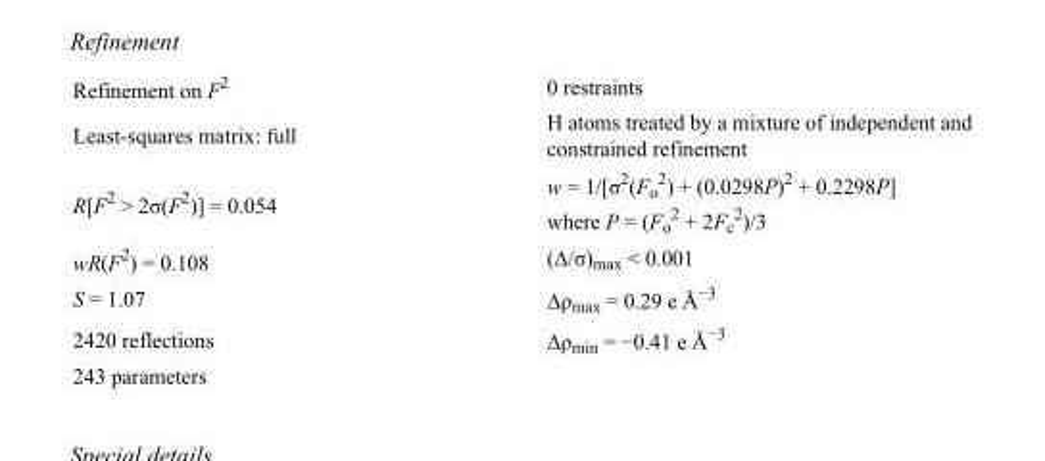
<table><tbody><tr><td>Refinement on F<sup>2</sup></td><td>0 restraints</td></tr><tr><td>Least-squares matrix: full</td><td>H atoms treated by a mixture of independent and constrained refinement</td></tr><tr><td>R[F<sup>2</sup> &gt; 2σ(F<sup>2</sup>)] = 0.054</td><td>w = 1/[σ<sup>2</sup>(F<sub>o</sub> <sup>2</sup>) + (0.0298P)<sup>2</sup> + 0.2298P] where P = (F<sub>o</sub> <sup>2</sup> + 2F<sub>c</sub> <sup>2</sup>)/3</td></tr><tr><td>wR(F<sup>2</sup>) = 0.108</td><td>(Δ/σ)<sub>max</sub> &lt; 0.001</td></tr><tr><td>S = 1.07</td><td>Δρ<sub>max</sub> = 0.29 e Å<sup>−3</sup></td></tr><tr><td>2420 reflections</td><td>Δρ<sub>min</sub> = −0.41 e Å<sup>−3</sup></td></tr><tr><td>243 parameters</td><td></td></tr></tbody></table>